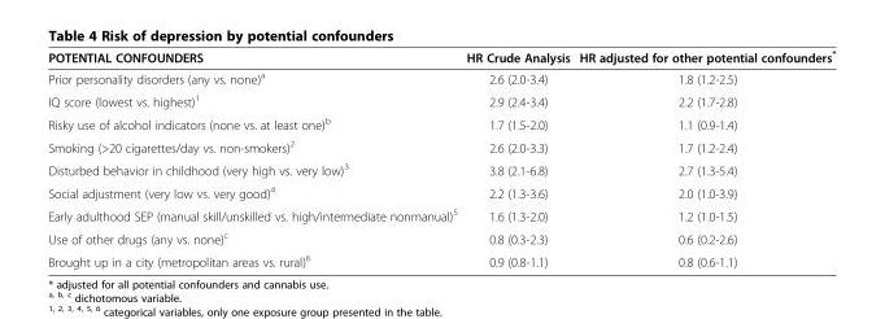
<table><thead><tr><td>POTENTIAL CONFOUNDERS</td><td>HR Crude Analysis</td><td>HR adjusted for other potential confounders*</td></tr></thead><tbody><tr><td>Prior personality disorders (any vs. none)<sup>a</sup></td><td>2.6 (2.0-3.4)</td><td>1.8 (1.2-2.5)</td></tr><tr><td>IQ score (lowest vs. highest)<sup>1</sup></td><td>2.9 (2.4-3.4)</td><td>2.2 (1.7-2.8)</td></tr><tr><td>Risky use of alcohol indicators (none vs. at least one)<sup>b</sup></td><td>1.7 (1.5-2.0)</td><td>1.1 (0.9-1.4)</td></tr><tr><td>Smoking (&gt;20 cigarettes/day vs. non-smokers)<sup>2</sup></td><td>2.6 (2.0-3.3)</td><td>1.7 (1.2-2.4)</td></tr><tr><td>Disturbed behavior in childhood (very high vs. very low)<sup>3</sup></td><td>3.8 (2.1-6.8)</td><td>2.7 (1.3-5.4)</td></tr><tr><td>Social adjustment (very low vs. very good)<sup>4</sup></td><td>2.2 (1.3-3.6)</td><td>2.0 (1.0-3.9)</td></tr><tr><td>Early adulthood SEP (manual skill/unskilled vs. high/intermediate nonmanual)<sup>5</sup></td><td>1.6 (1.3-2.0)</td><td>1.2 (1.0-1.5)</td></tr><tr><td>Use of other drugs (any vs. none)<sup>c</sup></td><td>0.8 (0.3-2.3)</td><td>0.6 (0.2-2.6)</td></tr><tr><td>Brought up in a city (metropolitan areas vs. rural)<sup>6</sup></td><td>0.9 (0.8-1.1)</td><td>0.8 (0.6-1.1)</td></tr></tbody></table>